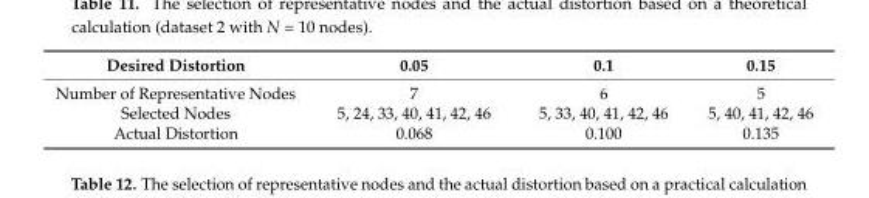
<table><thead><tr><td>Desired Distortion</td><td>0.05</td><td>0.1</td><td>0.15</td></tr></thead><tbody><tr><td>Number of Representative Nodes</td><td>7</td><td>6</td><td>5</td></tr><tr><td>Selected Nodes</td><td>5, 24, 33, 40, 41, 42, 46</td><td>5, 33, 40, 41, 42, 46</td><td>5, 40, 41, 42, 46</td></tr><tr><td>Actual Distortion</td><td>0.068</td><td>0.100</td><td>0.135</td></tr></tbody></table>